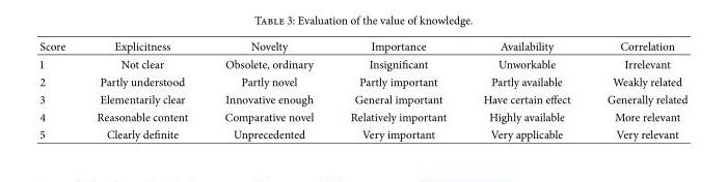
<table><thead><tr><td>Score</td><td>Explicitness</td><td>Novelty</td><td>Importance</td><td>Availability</td><td>Correlation</td></tr></thead><tbody><tr><td>1</td><td>Not clear</td><td>Obsolete, ordinary</td><td>Insignificant</td><td>Unworkable</td><td>Irrelevant</td></tr><tr><td>2</td><td>Partly understood</td><td>Partly novel</td><td>Partly important</td><td>Partly available</td><td>Weakly related</td></tr><tr><td>3</td><td>Elementarily clear</td><td>Innovative enough</td><td>General important</td><td>Have certain effect</td><td>Generally related</td></tr><tr><td>4</td><td>Reasonable content</td><td>Comparative novel</td><td>Relatively important</td><td>Highly available</td><td>More relevant</td></tr><tr><td>5</td><td>Clearly definite</td><td>Unprecedented</td><td>Very important</td><td>Very applicable</td><td>Very relevant</td></tr></tbody></table>